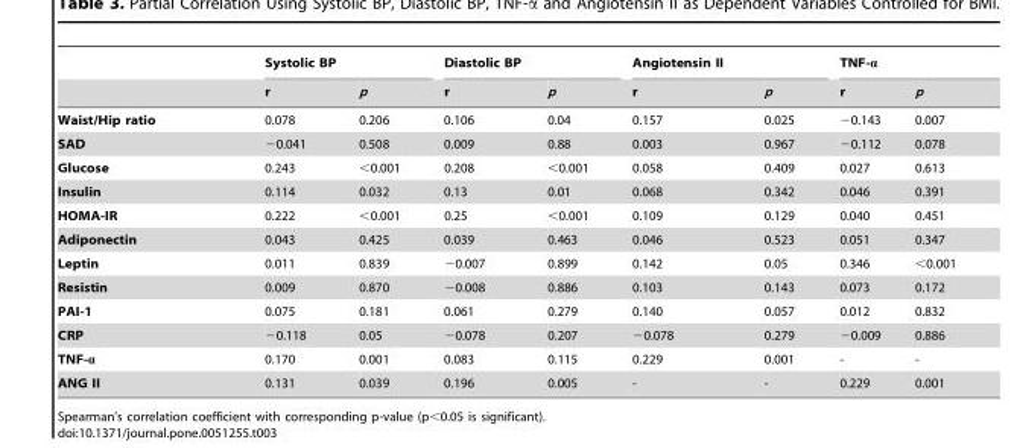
<table><thead><tr><td rowspan="2"></td><td colspan="2">Systolic BP</td><td colspan="2">Diastolic BP</td><td colspan="2">Angiotensin II</td><td colspan="2">TNF-α</td></tr><tr><td>r</td><td>p</td><td>r</td><td>p</td><td>r</td><td>p</td><td>r</td><td>p</td></tr></thead><tbody><tr><td>Waist/Hip ratio</td><td>0.078</td><td>0.206</td><td>0.106</td><td>0.04</td><td>0.157</td><td>0.025</td><td>−0.143</td><td>0.007</td></tr><tr><td>SAD</td><td>−0.041</td><td>0.508</td><td>0.009</td><td>0.88</td><td>0.003</td><td>0.967</td><td>−0.112</td><td>0.078</td></tr><tr><td>Glucose</td><td>0.243</td><td>&lt;0.001</td><td>0.208</td><td>&lt;0.001</td><td>0.058</td><td>0.409</td><td>0.027</td><td>0.613</td></tr><tr><td>Insulin</td><td>0.114</td><td>0.032</td><td>0.13</td><td>0.01</td><td>0.068</td><td>0.342</td><td>0.046</td><td>0.391</td></tr><tr><td>HOMA-IR</td><td>0.222</td><td>&lt;0.001</td><td>0.25</td><td>&lt;0.001</td><td>0.109</td><td>0.129</td><td>0.040</td><td>0.451</td></tr><tr><td>Adiponectin</td><td>0.043</td><td>0.425</td><td>0.039</td><td>0.463</td><td>0.046</td><td>0.523</td><td>0.051</td><td>0.347</td></tr><tr><td>Leptin</td><td>0.011</td><td>0.839</td><td>−0.007</td><td>0.899</td><td>0.142</td><td>0.05</td><td>0.346</td><td>&lt;0.001</td></tr><tr><td>Resistin</td><td>0.009</td><td>0.870</td><td>−0.008</td><td>0.886</td><td>0.103</td><td>0.143</td><td>0.073</td><td>0.172</td></tr><tr><td>PAI-1</td><td>0.075</td><td>0.181</td><td>0.061</td><td>0.279</td><td>0.140</td><td>0.057</td><td>0.012</td><td>0.832</td></tr><tr><td>CRP</td><td>−0.118</td><td>0.05</td><td>−0.078</td><td>0.207</td><td>−0.078</td><td>0.279</td><td>−0.009</td><td>0.886</td></tr><tr><td>TNF-α</td><td>0.170</td><td>0.001</td><td>0.083</td><td>0.115</td><td>0.229</td><td>0.001</td><td>-</td><td>-</td></tr><tr><td>ANG II</td><td>0.131</td><td>0.039</td><td>0.196</td><td>0.005</td><td>-</td><td>-</td><td>0.229</td><td>0.001</td></tr></tbody></table>